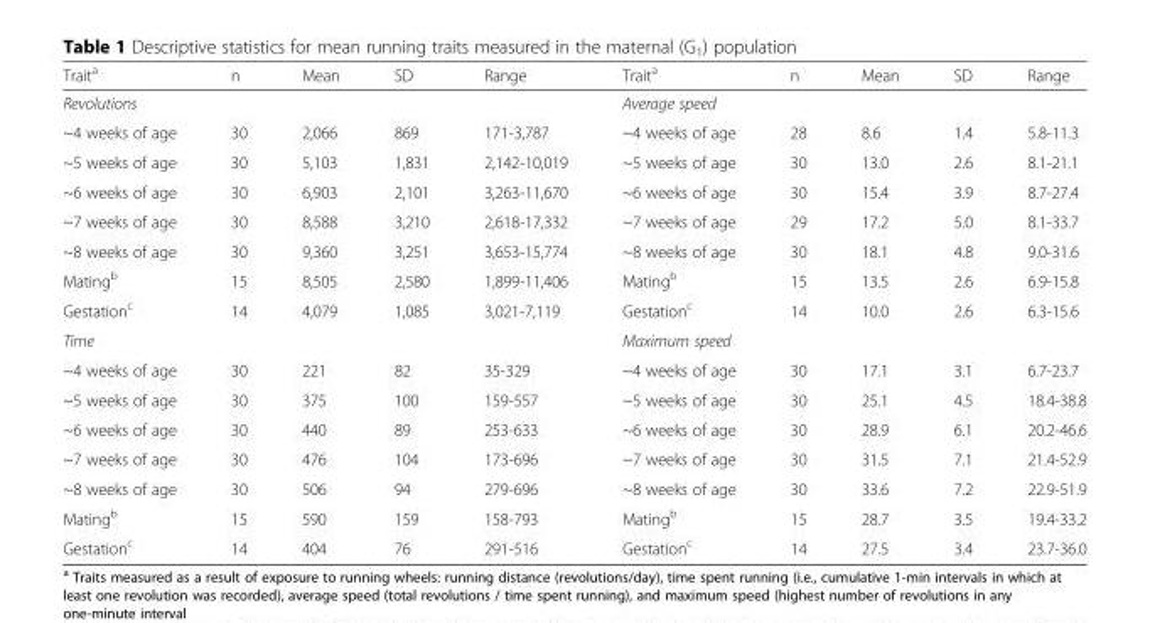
<table><thead><tr><td>Trait<sup>a</sup></td><td>n</td><td>Mean</td><td>SD</td><td>Range</td><td>Trait<sup>a</sup></td><td>n</td><td>Mean</td><td>SD</td><td>Range</td></tr></thead><tbody><tr><td>Revolutions</td><td></td><td></td><td></td><td></td><td>Average speed</td><td></td><td></td><td></td><td></td></tr><tr><td>~4 weeks of age</td><td>30</td><td>2,066</td><td>869</td><td>171-3,787</td><td>~4 weeks of age</td><td>28</td><td>8.6</td><td>1.4</td><td>5.8-11.3</td></tr><tr><td>~5 weeks of age</td><td>30</td><td>5,103</td><td>1,831</td><td>2,142-10,019</td><td>~5 weeks of age</td><td>30</td><td>13.0</td><td>2.6</td><td>8.1-21.1</td></tr><tr><td>~6 weeks of age</td><td>30</td><td>6,903</td><td>2,101</td><td>3,263-11,670</td><td>~6 weeks of age</td><td>30</td><td>15.4</td><td>3.9</td><td>8.7-27.4</td></tr><tr><td>~7 weeks of age</td><td>30</td><td>8,588</td><td>3,210</td><td>2,618-17,332</td><td>~7 weeks of age</td><td>29</td><td>17.2</td><td>5.0</td><td>8.1-33.7</td></tr><tr><td>~8 weeks of age</td><td>30</td><td>9,360</td><td>3,251</td><td>3,653-15,774</td><td>~8 weeks of age</td><td>30</td><td>18.1</td><td>4.8</td><td>9.0-31.6</td></tr><tr><td>Mating<sup>b</sup></td><td>15</td><td>8,505</td><td>2,580</td><td>1,899-11,406</td><td>Mating<sup>b</sup></td><td>15</td><td>13.5</td><td>2.6</td><td>6.9-15.8</td></tr><tr><td>Gestation<sup>c</sup></td><td>14</td><td>4,079</td><td>1,085</td><td>3,021-7,119</td><td>Gestation<sup>c</sup></td><td>14</td><td>10.0</td><td>2.6</td><td>6.3-15.6</td></tr><tr><td>Time</td><td></td><td></td><td></td><td></td><td>Maximum speed</td><td></td><td></td><td></td><td></td></tr><tr><td>~4 weeks of age</td><td>30</td><td>221</td><td>82</td><td>35-329</td><td>~4 weeks of age</td><td>30</td><td>17.1</td><td>3.1</td><td>6.7-23.7</td></tr><tr><td>~5 weeks of age</td><td>30</td><td>375</td><td>100</td><td>159-557</td><td>~5 weeks of age</td><td>30</td><td>25.1</td><td>4.5</td><td>18.4-38.8</td></tr><tr><td>~6 weeks of age</td><td>30</td><td>440</td><td>89</td><td>253-633</td><td>~6 weeks of age</td><td>30</td><td>28.9</td><td>6.1</td><td>20.2-46.6</td></tr><tr><td>~7 weeks of age</td><td>30</td><td>476</td><td>104</td><td>173-696</td><td>~7 weeks of age</td><td>30</td><td>31.5</td><td>7.1</td><td>21.4-52.9</td></tr><tr><td>~8 weeks of age</td><td>30</td><td>506</td><td>94</td><td>279-696</td><td>~8 weeks of age</td><td>30</td><td>33.6</td><td>7.2</td><td>22.9-51.9</td></tr><tr><td>Mating<sup>b</sup></td><td>15</td><td>590</td><td>159</td><td>158-793</td><td>Mating<sup>b</sup></td><td>15</td><td>28.7</td><td>3.5</td><td>19.4-33.2</td></tr><tr><td>Gestation<sup>c</sup></td><td>14</td><td>404</td><td>76</td><td>291-516</td><td>Gestation<sup>c</sup></td><td>14</td><td>27.5</td><td>3.4</td><td>23.7-36.0</td></tr></tbody></table>